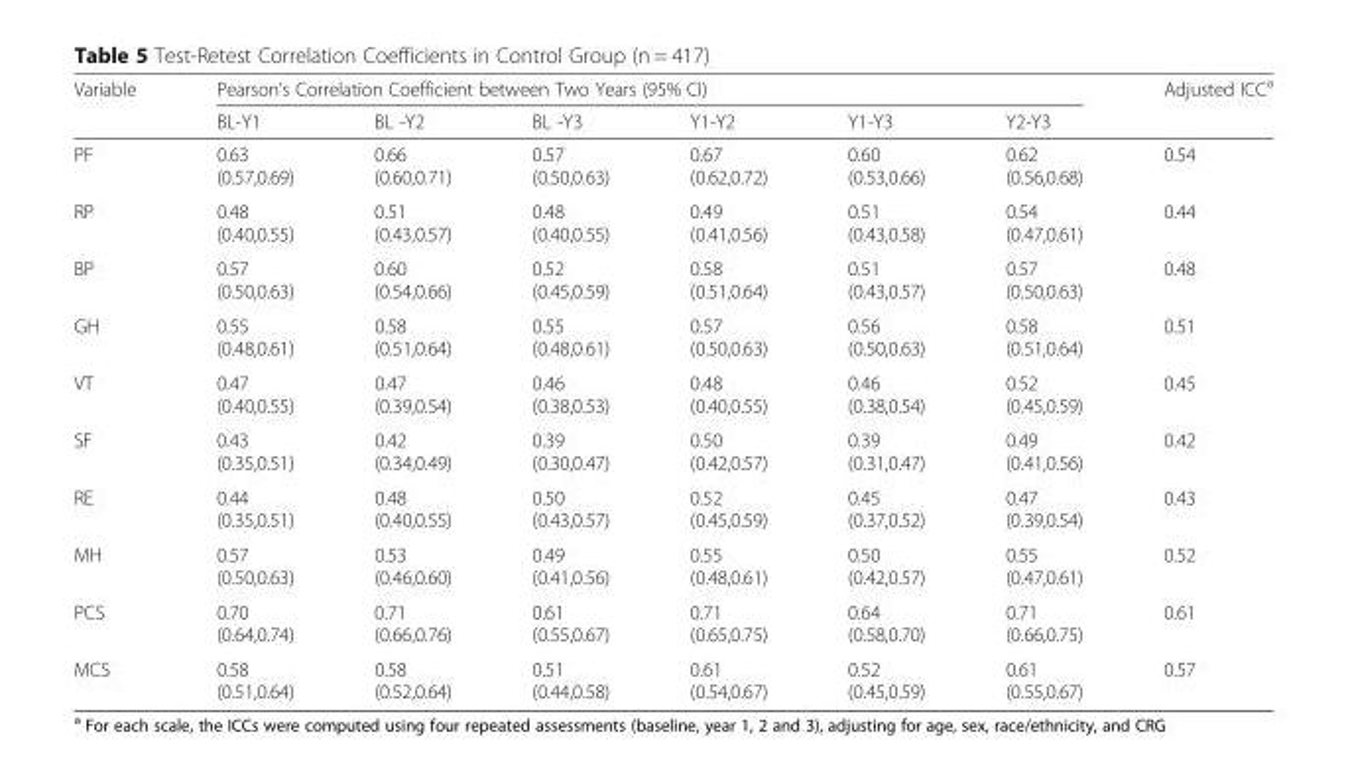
<table><thead><tr><td rowspan="2">Variable</td><td colspan="6">Pearson’s Correlation Coefficient between Two Years (95% CI)</td><td rowspan="2">Adjusted ICC<sup>a</sup></td></tr><tr><td>BL-Y1</td><td>BL -Y2</td><td>BL -Y3</td><td>Y1-Y2</td><td>Y1-Y3</td><td>Y2-Y3</td></tr></thead><tbody><tr><td>PF</td><td>0.63 (0.57,0.69)</td><td>0.66 (0.60,0.71)</td><td>0.57 (0.50,0.63)</td><td>0.67 (0.62,0.72)</td><td>0.60 (0.53,0.66)</td><td>0.62 (0.56,0.68)</td><td>0.54</td></tr><tr><td>RP</td><td>0.48 (0.40,0.55)</td><td>0.51 (0.43,0.57)</td><td>0.48 (0.40,0.55)</td><td>0.49 (0.41,0.56)</td><td>0.51 (0.43,0.58)</td><td>0.54 (0.47,0.61)</td><td>0.44</td></tr><tr><td>BP</td><td>0.57 (0.50,0.63)</td><td>0.60 (0.54,0.66)</td><td>0.52 (0.45,0.59)</td><td>0.58 (0.51,0.64)</td><td>0.51 (0.43,0.57)</td><td>0.57 (0.50,0.63)</td><td>0.48</td></tr><tr><td>GH</td><td>0.55 (0.48,0.61)</td><td>0.58 (0.51,0.64)</td><td>0.55 (0.48,0.61)</td><td>0.57 (0.50,0.63)</td><td>0.56 (0.50,0.63)</td><td>0.58 (0.51,0.64)</td><td>0.51</td></tr><tr><td>VT</td><td>0.47 (0.40,0.55)</td><td>0.47 (0.39,0.54)</td><td>0.46 (0.38,0.53)</td><td>0.48 (0.40,0.55)</td><td>0.46 (0.38,0.54)</td><td>0.52 (0.45,0.59)</td><td>0.45</td></tr><tr><td>SF</td><td>0.43 (0.35,0.51)</td><td>0.42 (0.34,0.49)</td><td>0.39 (0.30,0.47)</td><td>0.50 (0.42,0.57)</td><td>0.39 (0.31,0.47)</td><td>0.49 (0.41,0.56)</td><td>0.42</td></tr><tr><td>RE</td><td>0.44 (0.35,0.51)</td><td>0.48 (0.40,0.55)</td><td>0.50 (0.43,0.57)</td><td>0.52 (0.45,0.59)</td><td>0.45 (0.37,0.52)</td><td>0.47 (0.39,0.54)</td><td>0.43</td></tr><tr><td>MH</td><td>0.57 (0.50,0.63)</td><td>0.53 (0.46,0.60)</td><td>0.49 (0.41,0.56)</td><td>0.55 (0.48,0.61)</td><td>0.50 (0.42,0.57)</td><td>0.55 (0.47,0.61)</td><td>0.52</td></tr><tr><td>PCS</td><td>0.70 (0.64,0.74)</td><td>0.71 (0.66,0.76)</td><td>0.61 (0.55,0.67)</td><td>0.71 (0.65,0.75)</td><td>0.64 (0.58,0.70)</td><td>0.71 (0.66,0.75)</td><td>0.61</td></tr><tr><td>MCS</td><td>0.58 (0.51,0.64)</td><td>0.58 (0.52,0.64)</td><td>0.51 (0.44,0.58)</td><td>0.61 (0.54,0.67)</td><td>0.52 (0.45,0.59)</td><td>0.61 (0.55,0.67)</td><td>0.57</td></tr></tbody></table>